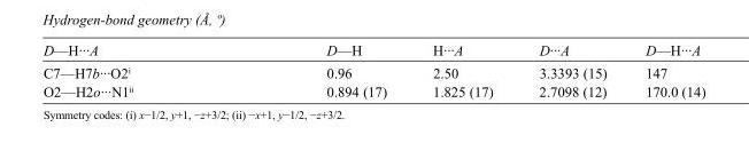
<table><tbody><tr><td>D—H···A</td><td>D—H</td><td>H···A</td><td>D···A</td><td>D—H···A</td></tr><tr><td>C7—H7b···O2<sup>i</sup></td><td>0.96</td><td>2.50</td><td>3.3393 (15)</td><td>147</td></tr><tr><td>O2—H2o···N1<sup>ii</sup></td><td>0.894 (17)</td><td>1.825 (17)</td><td>2.7098 (12)</td><td>170.0 (14)</td></tr></tbody></table>